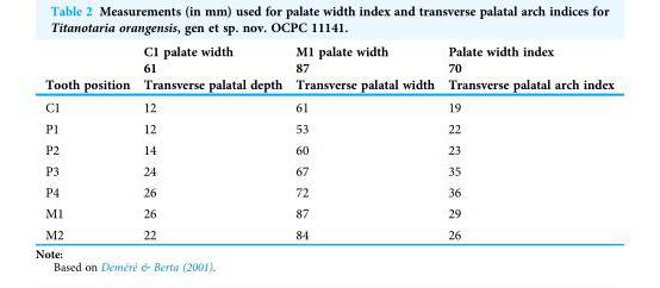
<table><thead><tr><td rowspan="3">Tooth position</td><td rowspan="3">C1 palate width 61 Transverse palatal depth</td><td rowspan="3">M1 palate width 87 Transverse palatal width</td><td rowspan="3">Palate width index 70 Transverse palatal arch index</td></tr><tr></tr><tr></tr></thead><tbody><tr><td>C1</td><td>12</td><td>61</td><td>19</td></tr><tr><td>P1</td><td>12</td><td>53</td><td>22</td></tr><tr><td>P2</td><td>14</td><td>60</td><td>23</td></tr><tr><td>P3</td><td>24</td><td>67</td><td>35</td></tr><tr><td>P4</td><td>26</td><td>72</td><td>36</td></tr><tr><td>M1</td><td>26</td><td>87</td><td>29</td></tr><tr><td>M2</td><td>22</td><td>84</td><td>26</td></tr></tbody></table>